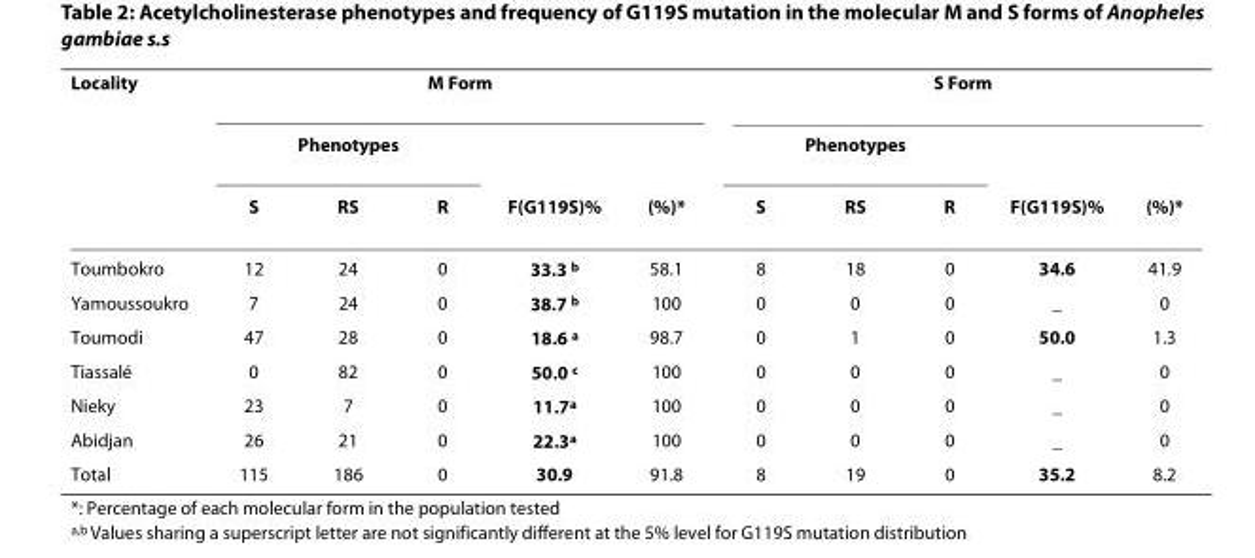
<table><thead><tr><td rowspan="3">Locality</td><td colspan="5">M Form</td><td colspan="5">S Form</td></tr><tr><td colspan="3">Phenotypes</td><td rowspan="2">F(G119S)%</td><td rowspan="2">(%)*</td><td colspan="3">Phenotypes</td><td rowspan="2">F(G119S)%</td><td rowspan="2">(%)*</td></tr><tr><td>S</td><td>RS</td><td>R</td><td>S</td><td>RS</td><td>R</td></tr></thead><tbody><tr><td>Toumbokro</td><td>12</td><td>24</td><td>0</td><td>33.3 <sup>b</sup></td><td>58.1</td><td>8</td><td>18</td><td>0</td><td>34.6</td><td>41.9</td></tr><tr><td>Yamoussoukro</td><td>7</td><td>24</td><td>0</td><td>38.7 <sup>b</sup></td><td>100</td><td>0</td><td>0</td><td>0</td><td>_</td><td>0</td></tr><tr><td>Toumodi</td><td>47</td><td>28</td><td>0</td><td>18.6 <sup>a</sup></td><td>98.7</td><td>0</td><td>1</td><td>0</td><td>50.0</td><td>1.3</td></tr><tr><td>Tiassalé</td><td>0</td><td>82</td><td>0</td><td>50.0 <sup>c</sup></td><td>100</td><td>0</td><td>0</td><td>0</td><td>_</td><td>0</td></tr><tr><td>Nieky</td><td>23</td><td>7</td><td>0</td><td>11.7<sup>a</sup></td><td>100</td><td>0</td><td>0</td><td>0</td><td>_</td><td>0</td></tr><tr><td>Abidjan</td><td>26</td><td>21</td><td>0</td><td>22.3<sup>a</sup></td><td>100</td><td>0</td><td>0</td><td>0</td><td>_</td><td>0</td></tr><tr><td>Total</td><td>115</td><td>186</td><td>0</td><td>30.9</td><td>91.8</td><td>8</td><td>19</td><td>0</td><td>35.2</td><td>8.2</td></tr></tbody></table>